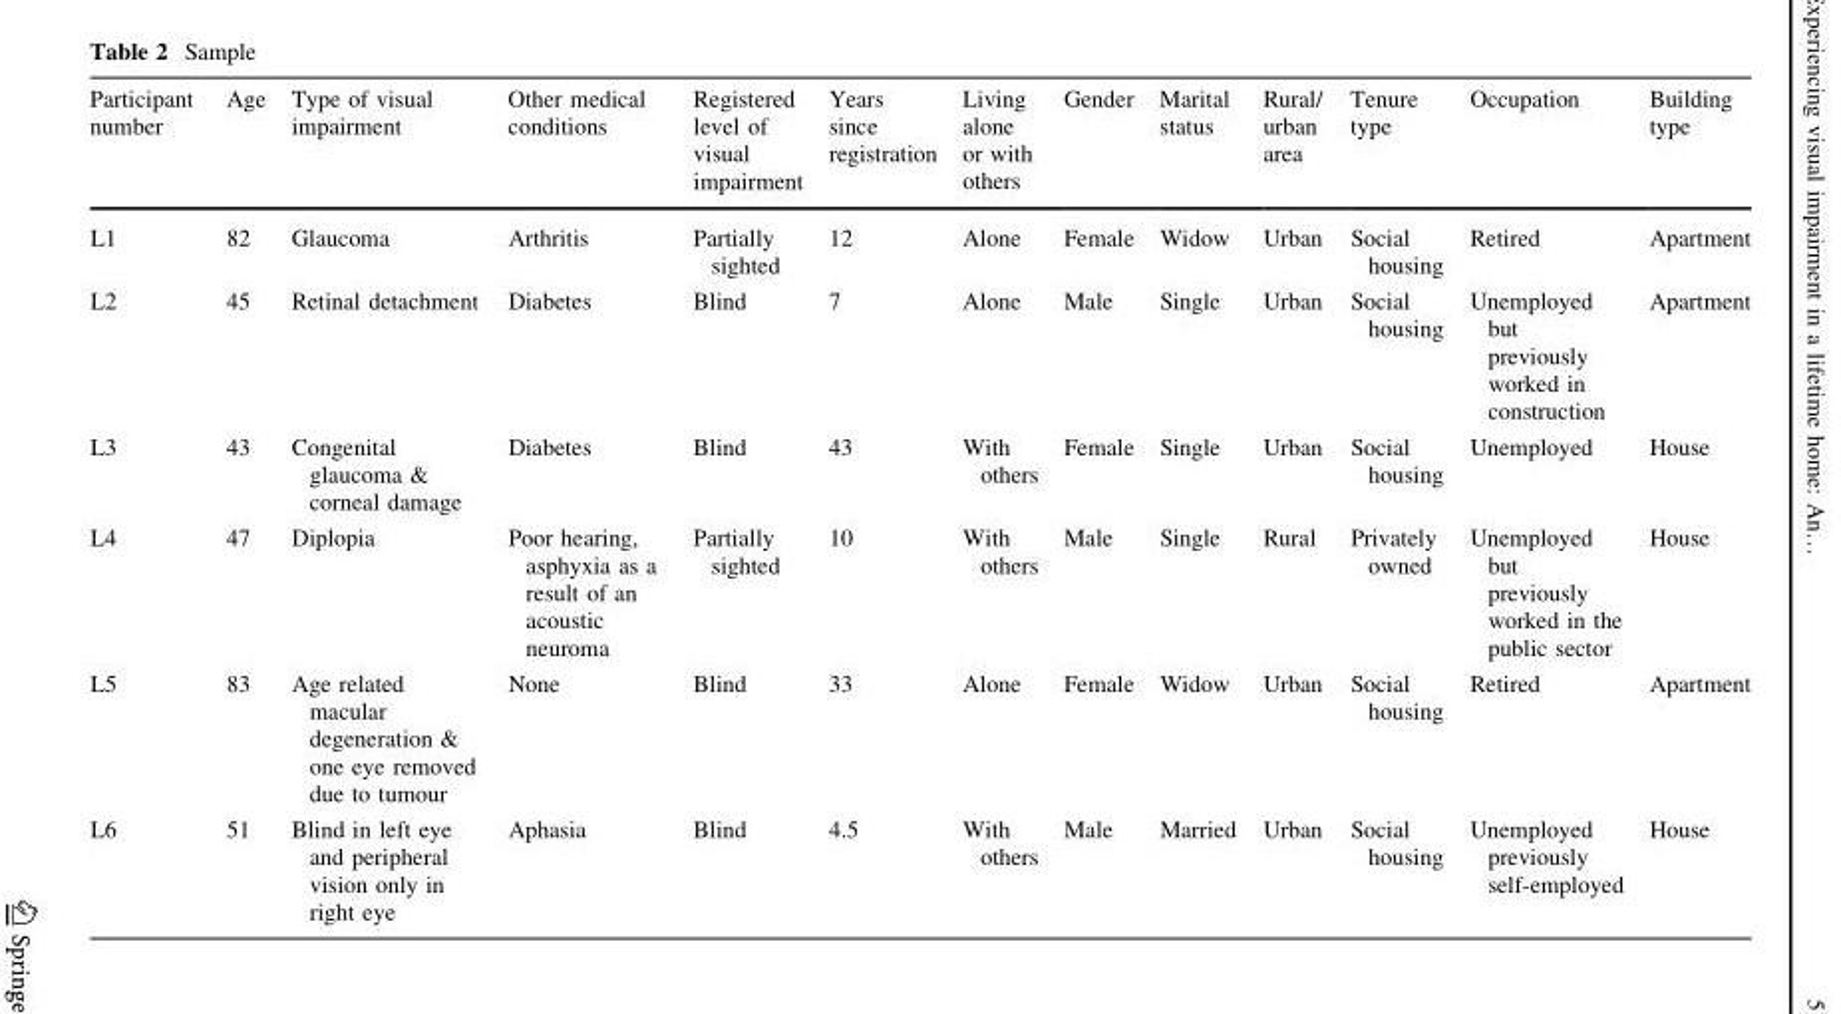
<table><thead><tr><td>Participant number</td><td>Age</td><td>Type of visual impairment</td><td>Other medical conditions</td><td>Registered level of visual impairment</td><td>Years since registration</td><td>Living alone or with others</td><td>Gender</td><td>Marital status</td><td>Rural/ urban area</td><td>Tenure type</td><td>Occupation</td><td>Building type</td></tr></thead><tbody><tr><td>L1</td><td>82</td><td>Glaucoma</td><td>Arthritis</td><td>Partially sighted</td><td>12</td><td>Alone</td><td>Female</td><td>Widow</td><td>Urban</td><td>Social housing</td><td>Retired</td><td>Apartment</td></tr><tr><td>L2</td><td>45</td><td>Retinal detachment</td><td>Diabetes</td><td>Blind</td><td>7</td><td>Alone</td><td>Male</td><td>Single</td><td>Urban</td><td>Social housing</td><td>Unemployed but previously worked in construction</td><td>Apartment</td></tr><tr><td>L3</td><td>43</td><td>Congenital glaucoma &amp; corneal damage</td><td>Diabetes</td><td>Blind</td><td>43</td><td>With others</td><td>Female</td><td>Single</td><td>Urban</td><td>Social housing</td><td>Unemployed</td><td>House</td></tr><tr><td>L4</td><td>47</td><td>Diplopia</td><td>Poor hearing, asphyxia as a result of an acoustic neuroma</td><td>Partially sighted</td><td>10</td><td>With others</td><td>Male</td><td>Single</td><td>Rural</td><td>Privately owned</td><td>Unemployed but previously worked in the public sector</td><td>House</td></tr><tr><td>L5</td><td>83</td><td>Age related macular degeneration &amp; one eye removed due to tumour</td><td>None</td><td>Blind</td><td>33</td><td>Alone</td><td>Female</td><td>Widow</td><td>Urban</td><td>Social housing</td><td>Retired</td><td>Apartment</td></tr><tr><td>L6</td><td>51</td><td>Blind in left eye and peripheral vision only in right eye</td><td>Aphasia</td><td>Blind</td><td>4.5</td><td>With others</td><td>Male</td><td>Married</td><td>Urban</td><td>Social housing</td><td>Unemployed previously self-employed</td><td>House</td></tr></tbody></table>